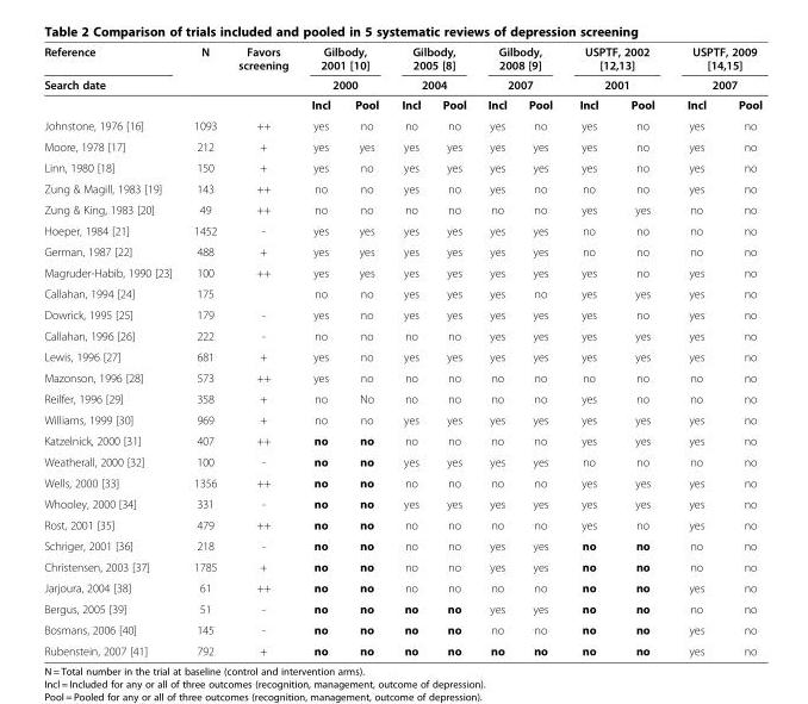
<table><thead><tr><td rowspan="3">Reference Search date</td><td rowspan="3">N</td><td rowspan="3">Favors screening</td><td rowspan="2" colspan="2">Gilbody, 2001 [10] 2000</td><td rowspan="2" colspan="2">Gilbody, 2005 [8] 2004</td><td rowspan="2" colspan="2">Gilbody, 2008 [9] 2007</td><td rowspan="2" colspan="2">USPTF, 2002 [12,13] 2001</td><td rowspan="2" colspan="2">USPTF, 2009 [14,15] 2007</td></tr><tr></tr><tr><td>Incl</td><td>Pool</td><td>Incl</td><td>Pool</td><td>Incl</td><td>Pool</td><td>Incl</td><td>Pool</td><td>Incl</td><td>Pool</td></tr></thead><tbody><tr><td>Johnstone, 1976 [16]</td><td>1093</td><td>++</td><td>yes</td><td>no</td><td>no</td><td>no</td><td>yes</td><td>no</td><td>yes</td><td>no</td><td>yes</td><td>no</td></tr><tr><td>Moore, 1978 [17]</td><td>212</td><td>+</td><td>yes</td><td>yes</td><td>yes</td><td>yes</td><td>yes</td><td>yes</td><td>yes</td><td>no</td><td>yes</td><td>no</td></tr><tr><td>Linn, 1980 [18]</td><td>150</td><td>+</td><td>yes</td><td>no</td><td>yes</td><td>yes</td><td>yes</td><td>yes</td><td>yes</td><td>no</td><td>yes</td><td>no</td></tr><tr><td>Zung &amp; Magill, 1983 [19]</td><td>143</td><td>++</td><td>no</td><td>no</td><td>yes</td><td>no</td><td>yes</td><td>no</td><td>no</td><td>no</td><td>yes</td><td>no</td></tr><tr><td>Zung &amp; King, 1983 [20]</td><td>49</td><td>++</td><td>no</td><td>no</td><td>no</td><td>no</td><td>no</td><td>no</td><td>yes</td><td>yes</td><td>no</td><td>no</td></tr><tr><td>Hoeper, 1984 [21]</td><td>1452</td><td>-</td><td>yes</td><td>yes</td><td>yes</td><td>yes</td><td>yes</td><td>yes</td><td>no</td><td>no</td><td>no</td><td>no</td></tr><tr><td>German, 1987 [22]</td><td>488</td><td>+</td><td>yes</td><td>yes</td><td>yes</td><td>yes</td><td>yes</td><td>yes</td><td>no</td><td>no</td><td>no</td><td>no</td></tr><tr><td>Magruder-Habib, 1990 [23]</td><td>100</td><td>++</td><td>yes</td><td>yes</td><td>yes</td><td>yes</td><td>yes</td><td>yes</td><td>yes</td><td>no</td><td>yes</td><td>no</td></tr><tr><td>Callahan, 1994 [24]</td><td>175</td><td></td><td>no</td><td>no</td><td>yes</td><td>yes</td><td>yes</td><td>no</td><td>yes</td><td>yes</td><td>yes</td><td>no</td></tr><tr><td>Dowrick, 1995 [25]</td><td>179</td><td>-</td><td>yes</td><td>no</td><td>yes</td><td>yes</td><td>yes</td><td>yes</td><td>yes</td><td>no</td><td>yes</td><td>no</td></tr><tr><td>Callahan, 1996 [26]</td><td>222</td><td>-</td><td>no</td><td>no</td><td>no</td><td>no</td><td>yes</td><td>yes</td><td>yes</td><td>yes</td><td>yes</td><td>no</td></tr><tr><td>Lewis, 1996 [27]</td><td>681</td><td>+</td><td>yes</td><td>no</td><td>yes</td><td>yes</td><td>yes</td><td>yes</td><td>yes</td><td>yes</td><td>yes</td><td>no</td></tr><tr><td>Mazonson, 1996 [28]</td><td>573</td><td>++</td><td>yes</td><td>no</td><td>no</td><td>no</td><td>no</td><td>no</td><td>no</td><td>no</td><td>no</td><td>no</td></tr><tr><td>Reilfer, 1996 [29]</td><td>358</td><td>+</td><td>no</td><td>No</td><td>no</td><td>no</td><td>no</td><td>no</td><td>yes</td><td>no</td><td>no</td><td>no</td></tr><tr><td>Williams, 1999 [30]</td><td>969</td><td>+</td><td>no</td><td>no</td><td>yes</td><td>yes</td><td>yes</td><td>yes</td><td>yes</td><td>yes</td><td>yes</td><td>no</td></tr><tr><td>Katzelnick, 2000 [31]</td><td>407</td><td>++</td><td>no</td><td>no</td><td>no</td><td>no</td><td>no</td><td>no</td><td>yes</td><td>yes</td><td>yes</td><td>no</td></tr><tr><td>Weatherall, 2000 [32]</td><td>100</td><td>-</td><td>no</td><td>no</td><td>yes</td><td>yes</td><td>yes</td><td>yes</td><td>no</td><td>no</td><td>no</td><td>no</td></tr><tr><td>Wells, 2000 [33]</td><td>1356</td><td>++</td><td>no</td><td>no</td><td>no</td><td>no</td><td>no</td><td>no</td><td>yes</td><td>yes</td><td>yes</td><td>no</td></tr><tr><td>Whooley, 2000 [34]</td><td>331</td><td>-</td><td>no</td><td>no</td><td>yes</td><td>yes</td><td>yes</td><td>yes</td><td>yes</td><td>yes</td><td>yes</td><td>no</td></tr><tr><td>Rost, 2001 [35]</td><td>479</td><td>++</td><td>no</td><td>no</td><td>no</td><td>no</td><td>no</td><td>no</td><td>yes</td><td>no</td><td>yes</td><td>no</td></tr><tr><td>Schriger, 2001 [36]</td><td>218</td><td>-</td><td>no</td><td>no</td><td>no</td><td>no</td><td>yes</td><td>yes</td><td>no</td><td>no</td><td>no</td><td>no</td></tr><tr><td>Christensen, 2003 [37]</td><td>1785</td><td>+</td><td>no</td><td>no</td><td>no</td><td>no</td><td>yes</td><td>yes</td><td>no</td><td>no</td><td>no</td><td>no</td></tr><tr><td>Jarjoura, 2004 [38]</td><td>61</td><td>++</td><td>no</td><td>no</td><td>no</td><td>no</td><td>no</td><td>no</td><td>no</td><td>no</td><td>yes</td><td>no</td></tr><tr><td>Bergus, 2005 [39]</td><td>51</td><td>-</td><td>no</td><td>no</td><td>no</td><td>no</td><td>yes</td><td>yes</td><td>no</td><td>no</td><td>no</td><td>no</td></tr><tr><td>Bosmans, 2006 [40]</td><td>145</td><td>-</td><td>no</td><td>no</td><td>no</td><td>no</td><td>no</td><td>no</td><td>no</td><td>no</td><td>yes</td><td>no</td></tr><tr><td>Rubenstein, 2007 [41]</td><td>792</td><td>+</td><td>no</td><td>no</td><td>no</td><td>no</td><td>no</td><td>no</td><td>no</td><td>no</td><td>yes</td><td>no</td></tr></tbody></table>